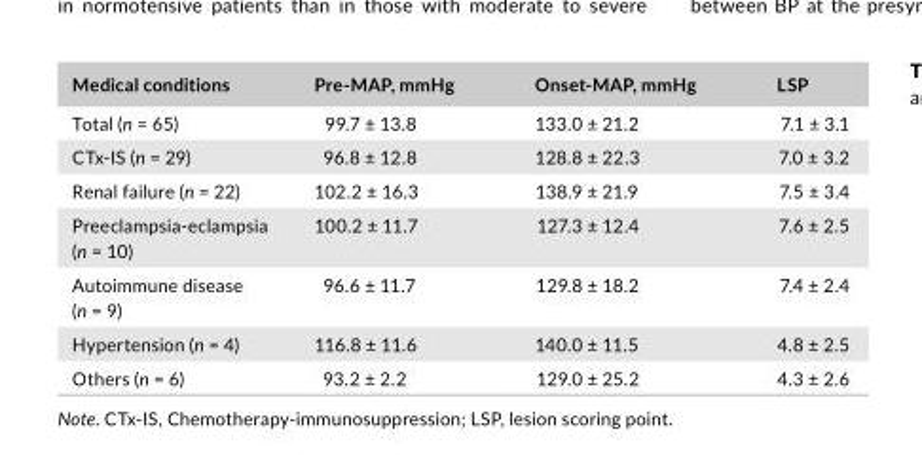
<table><thead><tr><td>Medical conditions</td><td>Pre- MAP, mmHg</td><td>Onset- MAP, mmHg</td><td>LSP</td></tr></thead><tbody><tr><td>Total (n = 65)</td><td>99.7 ± 13.8</td><td>133.0 ± 21.2</td><td>7.1 ± 3.1</td></tr><tr><td>CTx- IS (n = 29)</td><td>96.8 ± 12.8</td><td>128.8 ± 22.3</td><td>7.0 ± 3.2</td></tr><tr><td>Renal failure (n = 22)</td><td>102.2 ± 16.3</td><td>138.9 ± 21.9</td><td>7.5 ± 3.4</td></tr><tr><td>Preeclampsia- eclampsia (n = 10)</td><td>100.2 ± 11.7</td><td>127.3 ± 12.4</td><td>7.6 ± 2.5</td></tr><tr><td>Autoimmune disease (n = 9)</td><td>96.6 ± 11.7</td><td>129.8 ± 18.2</td><td>7.4 ± 2.4</td></tr><tr><td>Hypertension (n = 4)</td><td>116.8 ± 11.6</td><td>140.0 ± 11.5</td><td>4.8 ± 2.5</td></tr><tr><td>Others (n = 6)</td><td>93.2 ± 2.2</td><td>129.0 ± 25.2</td><td>4.3 ± 2.6</td></tr></tbody></table>